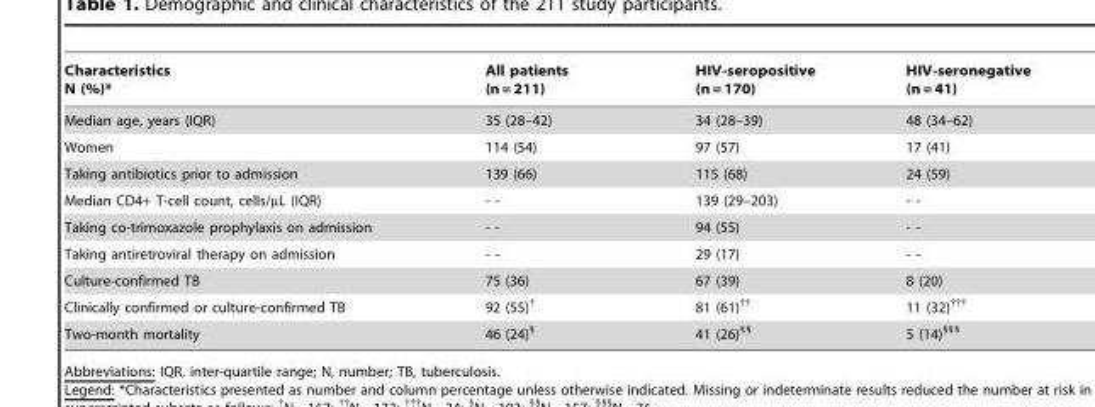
<table><thead><tr><td>Characteristics N (%)*</td><td>All patients (n = 211)</td><td>HIV-seropositive (n = 170)</td><td>HIV-seronegative (n = 41)</td></tr></thead><tbody><tr><td>Median age, years (IQR)</td><td>35 (28–42)</td><td>34 (28–39)</td><td>48 (34–62)</td></tr><tr><td>Women</td><td>114 (54)</td><td>97 (57)</td><td>17 (41)</td></tr><tr><td>Taking antibiotics prior to admission</td><td>139 (66)</td><td>115 (68)</td><td>24 (59)</td></tr><tr><td>Median CD4+ T-cell count, cells/µL (IQR)</td><td>- -</td><td>139 (29–203)</td><td>- -</td></tr><tr><td>Taking co-trimoxazole prophylaxis on admission</td><td>- -</td><td>94 (55)</td><td>- -</td></tr><tr><td>Taking antiretroviral therapy on admission</td><td>- -</td><td>29 (17)</td><td>- -</td></tr><tr><td>Culture-confirmed TB</td><td>75 (36)</td><td>67 (39)</td><td>8 (20)</td></tr><tr><td>Clinically confirmed or culture-confirmed TB</td><td>92 (55)†</td><td>81 (61)††</td><td>11 (32)†††</td></tr><tr><td>Two-month mortality</td><td>46 (24)§</td><td>41 (26)§§</td><td>5 (14)§§§</td></tr></tbody></table>